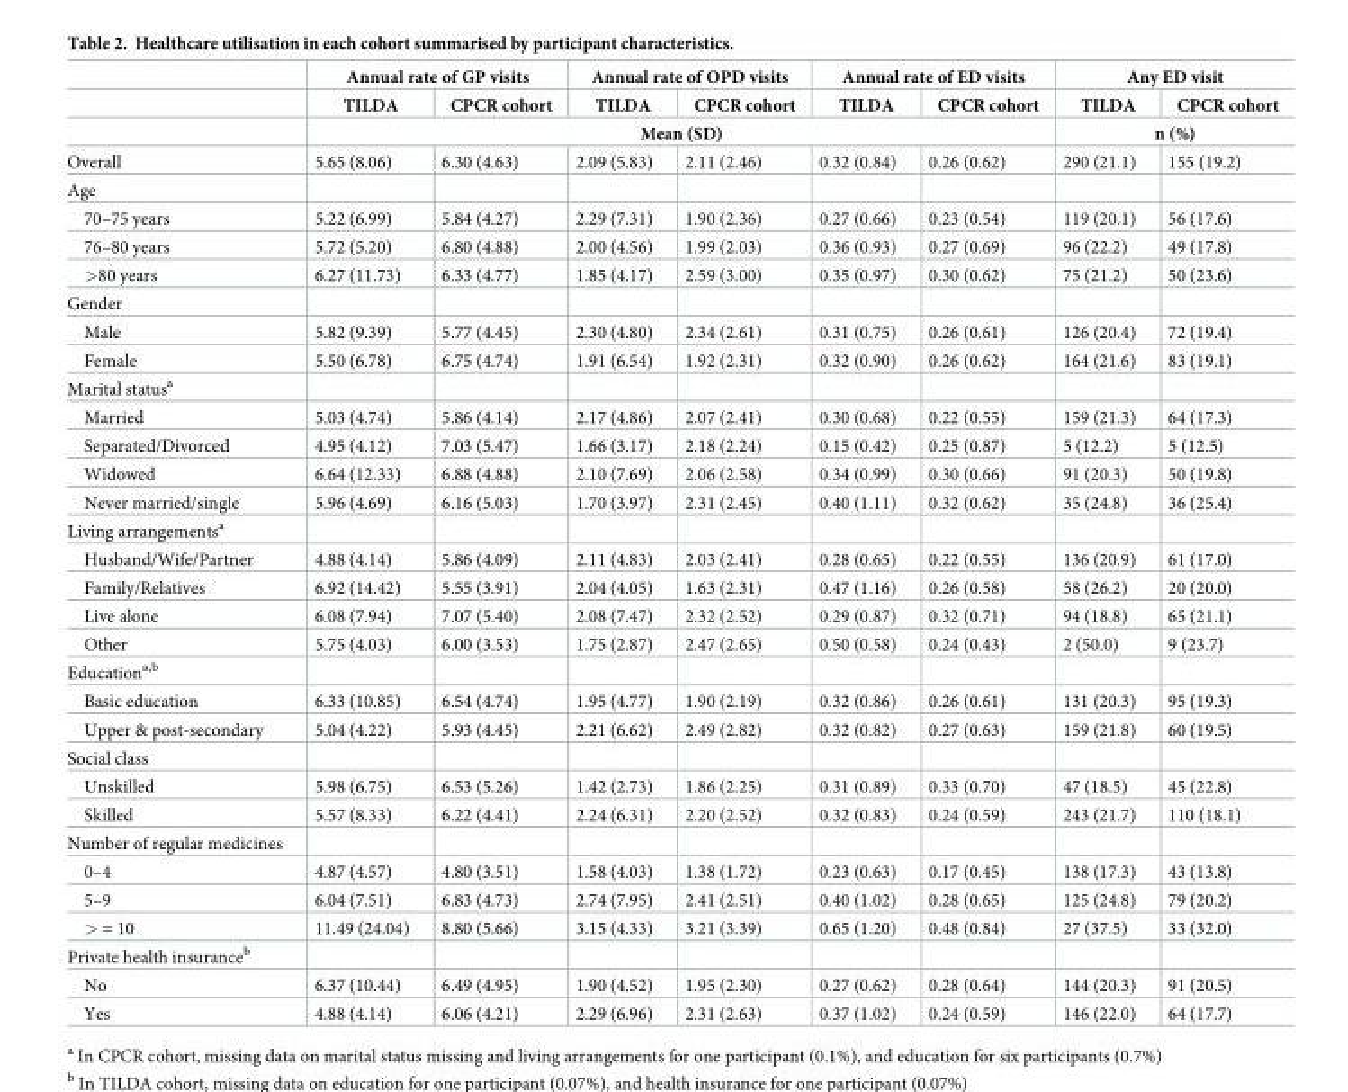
<table><thead><tr><td rowspan="3"></td><td colspan="2">Annual rate of GP visits</td><td colspan="2">Annual rate of OPD visits</td><td colspan="2">Annual rate of ED visits</td><td colspan="2">Any ED visit</td></tr><tr><td>TILDA</td><td>CPCR cohort</td><td>TILDA</td><td>CPCR cohort</td><td>TILDA</td><td>CPCR cohort</td><td>TILDA</td><td>CPCR cohort</td></tr><tr><td colspan="6">Mean (SD)</td><td colspan="2">n (%)</td></tr></thead><tbody><tr><td>Overall</td><td>5.65 (8.06)</td><td>6.30 (4.63)</td><td>2.09 (5.83)</td><td>2.11 (2.46)</td><td>0.32 (0.84)</td><td>0.26 (0.62)</td><td>290 (21.1)</td><td>155 (19.2)</td></tr><tr><td colspan="9">Age</td></tr><tr><td>70–75 years</td><td>5.22 (6.99)</td><td>5.84 (4.27)</td><td>2.29 (7.31)</td><td>1.90 (2.36)</td><td>0.27 (0.66)</td><td>0.23 (0.54)</td><td>119 (20.1)</td><td>56 (17.6)</td></tr><tr><td>76–80 years</td><td>5.72 (5.20)</td><td>6.80 (4.88)</td><td>2.00 (4.56)</td><td>1.99 (2.03)</td><td>0.36 (0.93)</td><td>0.27 (0.69)</td><td>96 (22.2)</td><td>49 (17.8)</td></tr><tr><td>&gt;80 years</td><td>6.27 (11.73)</td><td>6.33 (4.77)</td><td>1.85 (4.17)</td><td>2.59 (3.00)</td><td>0.35 (0.97)</td><td>0.30 (0.62)</td><td>75 (21.2)</td><td>50 (23.6)</td></tr><tr><td colspan="9">Gender</td></tr><tr><td>Male</td><td>5.82 (9.39)</td><td>5.77 (4.45)</td><td>2.30 (4.80)</td><td>2.34 (2.61)</td><td>0.31 (0.75)</td><td>0.26 (0.61)</td><td>126 (20.4)</td><td>72 (19.4)</td></tr><tr><td>Female</td><td>5.50 (6.78)</td><td>6.75 (4.74)</td><td>1.91 (6.54)</td><td>1.92 (2.31)</td><td>0.32 (0.90)</td><td>0.26 (0.62)</td><td>164 (21.6)</td><td>83 (19.1)</td></tr><tr><td colspan="9">Marital status<sup>a</sup></td></tr><tr><td>Married</td><td>5.03 (4.74)</td><td>5.86 (4.14)</td><td>2.17 (4.86)</td><td>2.07 (2.41)</td><td>0.30 (0.68)</td><td>0.22 (0.55)</td><td>159 (21.3)</td><td>64 (17.3)</td></tr><tr><td>Separated/Divorced</td><td>4.95 (4.12)</td><td>7.03 (5.47)</td><td>1.66 (3.17)</td><td>2.18 (2.24)</td><td>0.15 (0.42)</td><td>0.25 (0.87)</td><td>5 (12.2)</td><td>5 (12.5)</td></tr><tr><td>Widowed</td><td>6.64 (12.33)</td><td>6.88 (4.88)</td><td>2.10 (7.69)</td><td>2.06 (2.58)</td><td>0.34 (0.99)</td><td>0.30 (0.66)</td><td>91 (20.3)</td><td>50 (19.8)</td></tr><tr><td>Never married/single</td><td>5.96 (4.69)</td><td>6.16 (5.03)</td><td>1.70 (3.97)</td><td>2.31 (2.45)</td><td>0.40 (1.11)</td><td>0.32 (0.62)</td><td>35 (24.8)</td><td>36 (25.4)</td></tr><tr><td colspan="9">Living arrangements<sup>a</sup></td></tr><tr><td>Husband/Wife/Partner</td><td>4.88 (4.14)</td><td>5.86 (4.09)</td><td>2.11 (4.83)</td><td>2.03 (2.41)</td><td>0.28 (0.65)</td><td>0.22 (0.55)</td><td>136 (20.9)</td><td>61 (17.0)</td></tr><tr><td>Family/Relatives</td><td>6.92 (14.42)</td><td>5.55 (3.91)</td><td>2.04 (4.05)</td><td>1.63 (2.31)</td><td>0.47 (1.16)</td><td>0.26 (0.58)</td><td>58 (26.2)</td><td>20 (20.0)</td></tr><tr><td>Live alone</td><td>6.08 (7.94)</td><td>7.07 (5.40)</td><td>2.08 (7.47)</td><td>2.32 (2.52)</td><td>0.29 (0.87)</td><td>0.32 (0.71)</td><td>94 (18.8)</td><td>65 (21.1)</td></tr><tr><td>Other</td><td>5.75 (4.03)</td><td>6.00 (3.53)</td><td>1.75 (2.87)</td><td>2.47 (2.65)</td><td>0.50 (0.58)</td><td>0.24 (0.43)</td><td>2 (50.0)</td><td>9 (23.7)</td></tr><tr><td colspan="9">Education<sup>a,b</sup></td></tr><tr><td>Basic education</td><td>6.33 (10.85)</td><td>6.54 (4.74)</td><td>1.95 (4.77)</td><td>1.90 (2.19)</td><td>0.32 (0.86)</td><td>0.26 (0.61)</td><td>131 (20.3)</td><td>95 (19.3)</td></tr><tr><td>Upper &amp; post-secondary</td><td>5.04 (4.22)</td><td>5.93 (4.45)</td><td>2.21 (6.62)</td><td>2.49 (2.82)</td><td>0.32 (0.82)</td><td>0.27 (0.63)</td><td>159 (21.8)</td><td>60 (19.5)</td></tr><tr><td colspan="9">Social class</td></tr><tr><td>Unskilled</td><td>5.98 (6.75)</td><td>6.53 (5.26)</td><td>1.42 (2.73)</td><td>1.86 (2.25)</td><td>0.31 (0.89)</td><td>0.33 (0.70)</td><td>47 (18.5)</td><td>45 (22.8)</td></tr><tr><td>Skilled</td><td>5.57 (8.33)</td><td>6.22 (4.41)</td><td>2.24 (6.31)</td><td>2.20 (2.52)</td><td>0.32 (0.83)</td><td>0.24 (0.59)</td><td>243 (21.7)</td><td>110 (18.1)</td></tr><tr><td colspan="9">Number of regular medicines</td></tr><tr><td>0–4</td><td>4.87 (4.57)</td><td>4.80 (3.51)</td><td>1.58 (4.03)</td><td>1.38 (1.72)</td><td>0.23 (0.63)</td><td>0.17 (0.45)</td><td>138 (17.3)</td><td>43 (13.8)</td></tr><tr><td>5–9</td><td>6.04 (7.51)</td><td>6.83 (4.73)</td><td>2.74 (7.95)</td><td>2.41 (2.51)</td><td>0.40 (1.02)</td><td>0.28 (0.65)</td><td>125 (24.8)</td><td>79 (20.2)</td></tr><tr><td>&gt; = 10</td><td>11.49 (24.04)</td><td>8.80 (5.66)</td><td>3.15 (4.33)</td><td>3.21 (3.39)</td><td>0.65 (1.20)</td><td>0.48 (0.84)</td><td>27 (37.5)</td><td>33 (32.0)</td></tr><tr><td colspan="9">Private health insurance<sup>b</sup></td></tr><tr><td>No</td><td>6.37 (10.44)</td><td>6.49 (4.95)</td><td>1.90 (4.52)</td><td>1.95 (2.30)</td><td>0.27 (0.62)</td><td>0.28 (0.64)</td><td>144 (20.3)</td><td>91 (20.5)</td></tr><tr><td>Yes</td><td>4.88 (4.14)</td><td>6.06 (4.21)</td><td>2.29 (6.96)</td><td>2.31 (2.63)</td><td>0.37 (1.02)</td><td>0.24 (0.59)</td><td>146 (22.0)</td><td>64 (17.7)</td></tr></tbody></table>